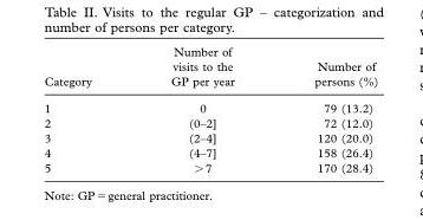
<table><thead><tr><td>Category</td><td>Number of visits to the GP per year</td><td>Number of persons (%)</td></tr></thead><tbody><tr><td>1</td><td>0</td><td>79 (13.2)</td></tr><tr><td>2</td><td>(0 – 2]</td><td>72 (12.0)</td></tr><tr><td>3</td><td>(2 – 4]</td><td>120 (20.0)</td></tr><tr><td>4</td><td>(4 – 7]</td><td>158 (26.4)</td></tr><tr><td>5</td><td>&gt; 7</td><td>170 (28.4)</td></tr></tbody></table>